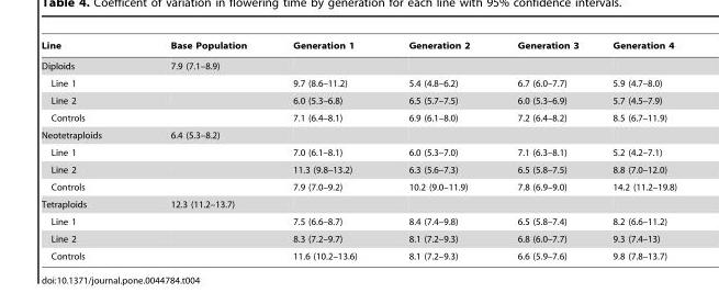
<table><thead><tr><td>Line</td><td>Base Population</td><td>Generation 1</td><td>Generation 2</td><td>Generation 3</td><td>Generation 4</td></tr></thead><tbody><tr><td>Diploids</td><td>7.9 (7.1–8.9)</td><td></td><td></td><td></td><td></td></tr><tr><td>Line 1</td><td></td><td>9.7 (8.6–11.2)</td><td>5.4 (4.8–6.2)</td><td>6.7 (6.0–7.7)</td><td>5.9 (4.7–8.0)</td></tr><tr><td>Line 2</td><td></td><td>6.0 (5.3–6.8)</td><td>6.5 (5.7–7.5)</td><td>6.0 (5.3–6.9)</td><td>5.7 (4.5–7.9)</td></tr><tr><td>Controls</td><td></td><td>7.1 (6.4–8.1)</td><td>6.9 (6.1–8.0)</td><td>7.2 (6.4–8.2)</td><td>8.5 (6.7–11.9)</td></tr><tr><td>Neotetraploids</td><td>6.4 (5.3–8.2)</td><td></td><td></td><td></td><td></td></tr><tr><td>Line 1</td><td></td><td>7.0 (6.1–8.1)</td><td>6.0 (5.3–7.0)</td><td>7.1 (6.3–8.1)</td><td>5.2 (4.2–7.1)</td></tr><tr><td>Line 2</td><td></td><td>11.3 (9.8–13.2)</td><td>6.3 (5.6–7.3)</td><td>6.5 (5.8–7.5)</td><td>8.8 (7.0–12.0)</td></tr><tr><td>Controls</td><td></td><td>7.9 (7.0–9.2)</td><td>10.2 (9.0–11.9)</td><td>7.8 (6.9–9.0)</td><td>14.2 (11.2–19.8)</td></tr><tr><td>Tetraploids</td><td>12.3 (11.2–13.7)</td><td></td><td></td><td></td><td></td></tr><tr><td>Line 1</td><td></td><td>7.5 (6.6–8.7)</td><td>8.4 (7.4–9.8)</td><td>6.5 (5.8–7.4)</td><td>8.2 (6.6–11.2)</td></tr><tr><td>Line 2</td><td></td><td>8.3 (7.2–9.7)</td><td>8.1 (7.2–9.3)</td><td>6.8 (6.0–7.7)</td><td>9.3 (7.4–13)</td></tr><tr><td>Controls</td><td></td><td>11.6 (10.2–13.6)</td><td>8.1 (7.2–9.3)</td><td>6.6 (5.9–7.6)</td><td>9.8 (7.8–13.7)</td></tr></tbody></table>